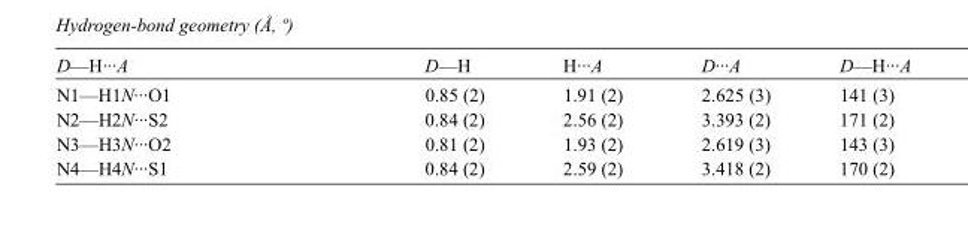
<table><tbody><tr><td>D—H···A</td><td>D—H</td><td>H···A</td><td>D···A</td><td>D—H···A</td></tr><tr><td>N1—H1N···O1</td><td>0.85 (2)</td><td>1.91 (2)</td><td>2.625 (3)</td><td>141 (3)</td></tr><tr><td>N2—H2N···S2</td><td>0.84 (2)</td><td>2.56 (2)</td><td>3.393 (2)</td><td>171 (2)</td></tr><tr><td>N3—H3N···O2</td><td>0.81 (2)</td><td>1.93 (2)</td><td>2.619 (3)</td><td>143 (3)</td></tr><tr><td>N4—H4N···S1</td><td>0.84 (2)</td><td>2.59 (2)</td><td>3.418 (2)</td><td>170 (2)</td></tr></tbody></table>